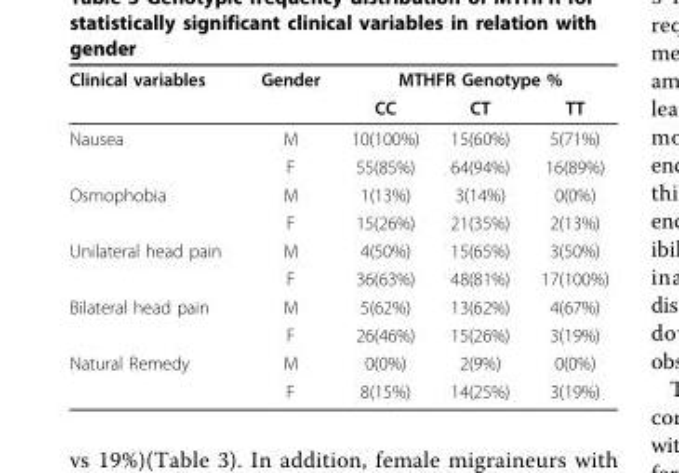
<table><thead><tr><td rowspan="2">Clinical variables</td><td rowspan="2">Gender</td><td colspan="3">MTHFR Genotype %</td></tr><tr><td>CC</td><td>CT</td><td>TT</td></tr></thead><tbody><tr><td rowspan="2">Nausea</td><td>M</td><td>10(100%)</td><td>15(60%)</td><td>5(71%)</td></tr><tr><td>F</td><td>55(85%)</td><td>64(94%)</td><td>16(89%)</td></tr><tr><td rowspan="2">Osmophobia</td><td>M</td><td>1(13%)</td><td>3(14%)</td><td>0(0%)</td></tr><tr><td>F</td><td>15(26%)</td><td>21(35%)</td><td>2(13%)</td></tr><tr><td rowspan="2">Unilateral head pain</td><td>M</td><td>4(50%)</td><td>15(65%)</td><td>3(50%)</td></tr><tr><td>F</td><td>36(63%)</td><td>48(81%)</td><td>17(100%)</td></tr><tr><td rowspan="2">Bilateral head pain</td><td>M</td><td>5(62%)</td><td>13(62%)</td><td>4(67%)</td></tr><tr><td>F</td><td>26(46%)</td><td>15(26%)</td><td>3(19%)</td></tr><tr><td rowspan="2">Natural Remedy</td><td>M</td><td>0(0%)</td><td>2(9%)</td><td>0(0%)</td></tr><tr><td>F</td><td>8(15%)</td><td>14(25%)</td><td>3(19%)</td></tr></tbody></table>